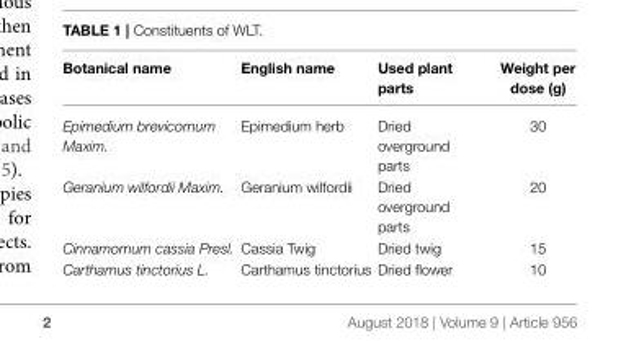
<table><thead><tr><td>Botanical name</td><td>English name</td><td>Used plant parts</td><td>Weight per dose (g)</td></tr></thead><tbody><tr><td>Epimedium brevicornum Maxim.</td><td>Epimedium herb</td><td>Dried overground parts</td><td>30</td></tr><tr><td>Geranium wilfordii Maxim.</td><td>Geranium wilfordii</td><td>Dried overground parts</td><td>20</td></tr><tr><td>Cinnamomum cassia Presl.</td><td>Cassia Twig</td><td>Dried twig</td><td>15</td></tr><tr><td>Carthamus tinctorius L.</td><td>Carthamus tinctorius</td><td>Dried flower</td><td>10</td></tr></tbody></table>